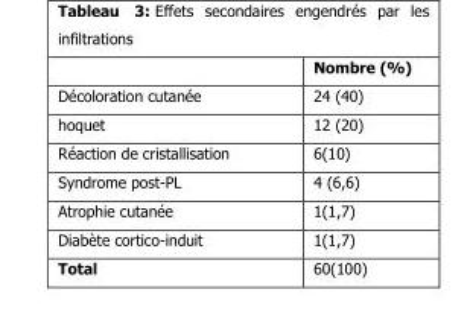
<table><thead><tr><td></td><td>Nombre (%)</td></tr></thead><tbody><tr><td>Décoloration cutanée</td><td>24 (40)</td></tr><tr><td>hoquet</td><td>12 (20)</td></tr><tr><td>Réaction de cristallisation</td><td>6(10)</td></tr><tr><td>Syndrome post-PL</td><td>4 (6,6)</td></tr><tr><td>Atrophie cutanée</td><td>1(1,7)</td></tr><tr><td>Diabète cortico-induit</td><td>1(1,7)</td></tr><tr><td>Total</td><td>60(100)</td></tr></tbody></table>